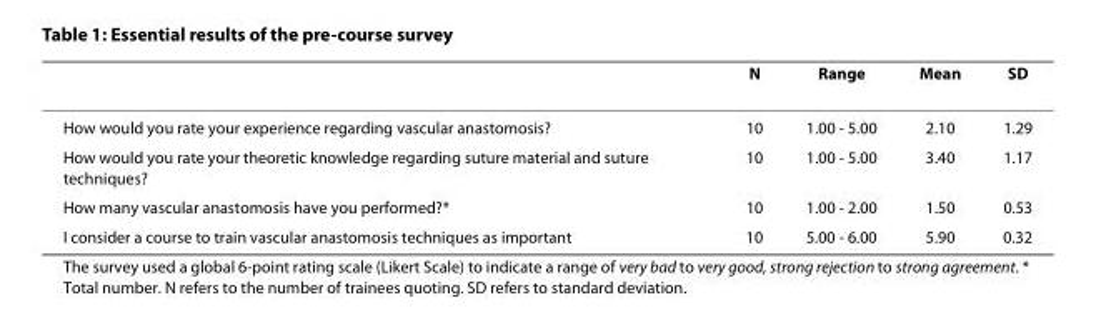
<table><thead><tr><td></td><td>N</td><td>Range</td><td>Mean</td><td>SD</td></tr></thead><tbody><tr><td>How would you rate your experience regarding vascular anastomosis?</td><td>10</td><td>1.00 - 5.00</td><td>2.10</td><td>1.29</td></tr><tr><td>How would you rate your theoretic knowledge regarding suture material and suture techniques?</td><td>10</td><td>1.00 - 5.00</td><td>3.40</td><td>1.17</td></tr><tr><td>How many vascular anastomosis have you performed?*</td><td>10</td><td>1.00 - 2.00</td><td>1.50</td><td>0.53</td></tr><tr><td>I consider a course to train vascular anastomosis techniques as important</td><td>10</td><td>5.00 - 6.00</td><td>5.90</td><td>0.32</td></tr></tbody></table>